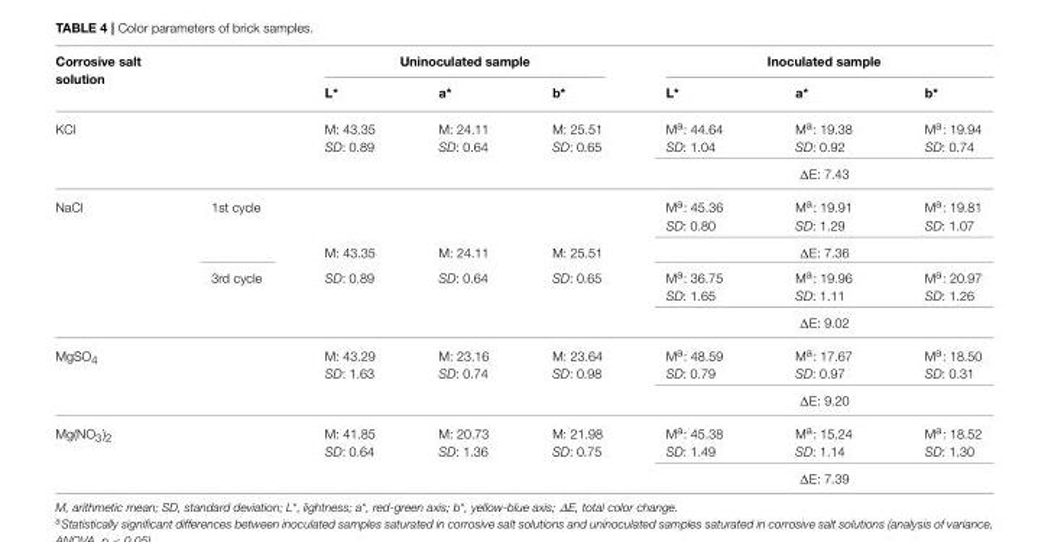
<table><thead><tr><td rowspan="2">Corrosive salt solution</td><td rowspan="2"></td><td colspan="3">Uninoculated sample</td><td colspan="3">Inoculated sample</td></tr><tr><td>L*</td><td>a*</td><td>b*</td><td>L*</td><td>a*</td><td>b*</td></tr></thead><tbody><tr><td rowspan="2">KCl</td><td></td><td>M: 43.35 SD: 0.89</td><td>M: 24.11 SD: 0.64</td><td>M: 25.51 SD: 0.65</td><td>M<sup>a</sup>: 44.64 SD: 1.04</td><td>M<sup>a</sup>: 19.38 SD: 0.92</td><td>M<sup>a</sup>: 19.94 SD: 0.74</td></tr><tr><td></td><td></td><td></td><td></td><td colspan="3">ΔE: 7.43</td></tr><tr><td rowspan="5">NaCl</td><td>1st cycle</td><td></td><td></td><td></td><td>M<sup>a</sup>: 45.36</td><td>M<sup>a</sup>: 19.91</td><td>M<sup>a</sup>: 19.81</td></tr><tr><td></td><td></td><td></td><td></td><td>SD: 0.80</td><td>SD: 1.29</td><td>SD: 1.07</td></tr><tr><td></td><td>M: 43.35</td><td>M: 24.11</td><td>M: 25.51</td><td colspan="3">ΔE: 7.36</td></tr><tr><td>3rd cycle</td><td>SD: 0.89</td><td>SD: 0.64</td><td>SD: 0.65</td><td>M<sup>a</sup>: 36.75 SD: 1.65</td><td>M<sup>a</sup>: 19.96 SD: 1.11</td><td>M<sup>a</sup>: 20.97 SD: 1.26</td></tr><tr><td></td><td></td><td></td><td></td><td colspan="3">ΔE: 9.02</td></tr><tr><td rowspan="2">MgSO<sub>4</sub></td><td></td><td>M: 43.29 SD: 1.63</td><td>M: 23.16 SD: 0.74</td><td>M: 23.64 SD: 0.98</td><td>M<sup>a</sup>: 48.59 SD: 0.79</td><td>M<sup>a</sup>: 17.67 SD: 0.97</td><td>M<sup>a</sup>: 18.50 SD: 0.31</td></tr><tr><td></td><td></td><td></td><td></td><td colspan="3">ΔE: 9.20</td></tr><tr><td rowspan="2">Mg(NO<sub>3</sub>)<sub>2</sub></td><td></td><td>M: 41.85 SD: 0.64</td><td>M: 20.73 SD: 1.36</td><td>M: 21.98 SD: 0.75</td><td>M<sup>a</sup>: 45.38 SD: 1.49</td><td>M<sup>a</sup>: 15.24 SD: 1.14</td><td>M<sup>a</sup>: 18.52 SD: 1.30</td></tr><tr><td></td><td></td><td></td><td></td><td colspan="3">ΔE: 7.39</td></tr></tbody></table>